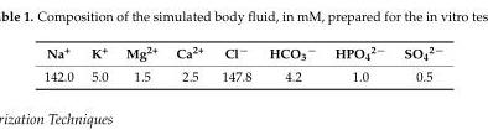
<table><thead><tr><td>Na<sup>+</sup></td><td>K<sup>+</sup></td><td>Mg<sup>2+</sup></td><td>Ca<sup>2+</sup></td><td>Cl<sup>−</sup></td><td>HCO<sub>3</sub><sup>−</sup></td><td>HPO<sub>4</sub><sup>2−</sup></td><td>SO<sub>4</sub><sup>2−</sup></td></tr></thead><tbody><tr><td>142.0</td><td>5.0</td><td>1.5</td><td>2.5</td><td>147.8</td><td>4.2</td><td>1.0</td><td>0.5</td></tr></tbody></table>